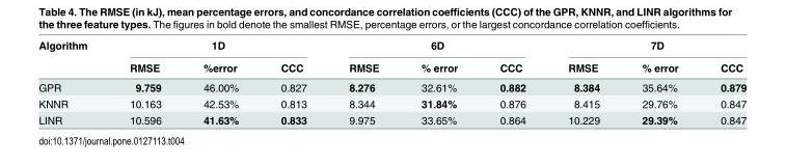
<table><thead><tr><td rowspan="2">Algorithm</td><td colspan="3">1D</td><td colspan="3">6D</td><td colspan="3">7D</td></tr><tr><td>RMSE</td><td>%error</td><td>CCC</td><td>RMSE</td><td>% error</td><td>CCC</td><td>RMSE</td><td>% error</td><td>CCC</td></tr></thead><tbody><tr><td>GPR</td><td>9.759</td><td>46.00%</td><td>0.827</td><td>8.276</td><td>32.61%</td><td>0.882</td><td>8.384</td><td>35.64%</td><td>0.879</td></tr><tr><td>KNNR</td><td>10.163</td><td>42.53%</td><td>0.813</td><td>8.344</td><td>31.84%</td><td>0.876</td><td>8.415</td><td>29.76%</td><td>0.847</td></tr><tr><td>LINR</td><td>10.596</td><td>41.63%</td><td>0.833</td><td>9.975</td><td>33.65%</td><td>0.864</td><td>10.229</td><td>29.39%</td><td>0.847</td></tr></tbody></table>